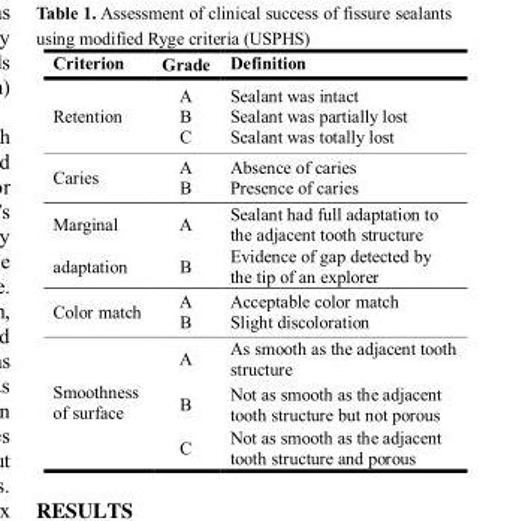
<table><thead><tr><td>Criterion</td><td>Grade</td><td>Definition</td></tr></thead><tbody><tr><td rowspan="3">Retention</td><td>A</td><td>Sealant was intact</td></tr><tr><td>B</td><td>Sealant was partially lost</td></tr><tr><td>C</td><td>Sealant was totally lost</td></tr><tr><td rowspan="2">Caries</td><td>A</td><td>Absence of caries</td></tr><tr><td>B</td><td>Presence of caries</td></tr><tr><td rowspan="2">Marginal adaptation</td><td>A</td><td>Sealant had full adaptation to the adjacent tooth structure</td></tr><tr><td>B</td><td>Evidence of gap detected by the tip of an explorer</td></tr><tr><td rowspan="2">Color match</td><td>A</td><td>Acceptable color match</td></tr><tr><td>B</td><td>Slight discoloration</td></tr><tr><td rowspan="3">Smoothness of surface</td><td>A</td><td>As smooth as the adjacent tooth structure</td></tr><tr><td>B</td><td>Not as smooth as the adjacent tooth structure but not porous</td></tr><tr><td>C</td><td>Not as smooth as the adjacent tooth structure and porous</td></tr></tbody></table>